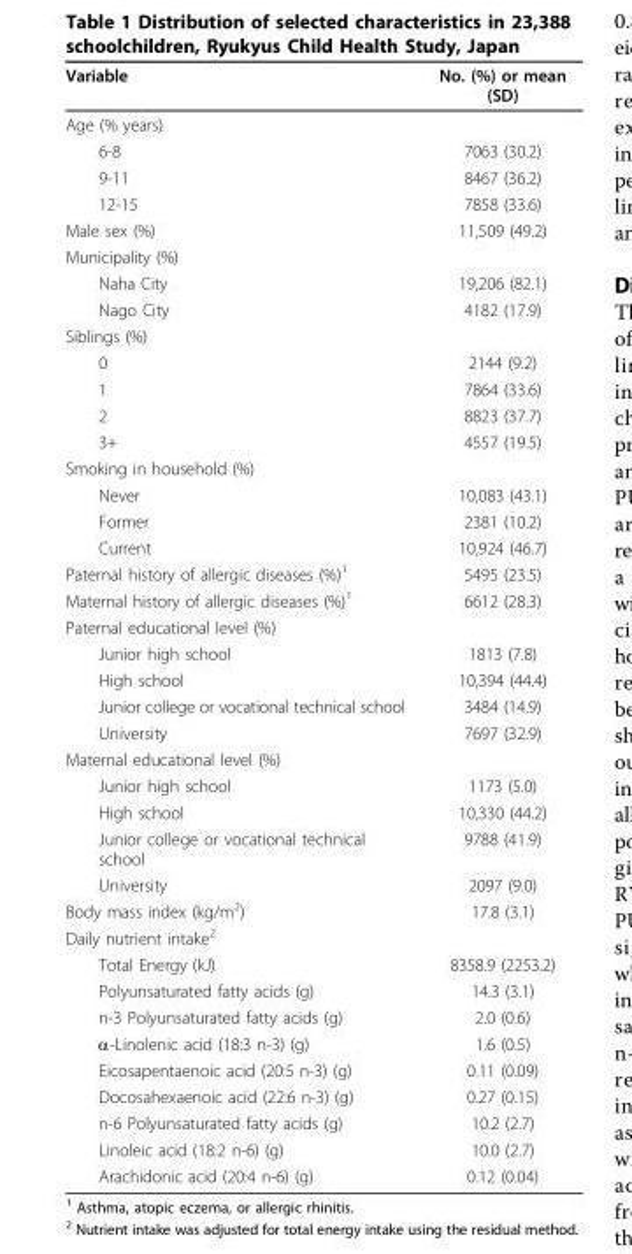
<table><thead><tr><td>Variable</td><td>No. (%) or mean (SD)</td></tr></thead><tbody><tr><td colspan="2">Age (% years)</td></tr><tr><td>6-8</td><td>7063 (30.2)</td></tr><tr><td>9-11</td><td>8467 (36.2)</td></tr><tr><td>12-15</td><td>7858 (33.6)</td></tr><tr><td>Male sex (%)</td><td>11,509 (49.2)</td></tr><tr><td colspan="2">Municipality (%)</td></tr><tr><td>Naha City</td><td>19,206 (82.1)</td></tr><tr><td>Nago City</td><td>4182 (17.9)</td></tr><tr><td colspan="2">Siblings (%)</td></tr><tr><td>0</td><td>2144 (9.2)</td></tr><tr><td>1</td><td>7864 (33.6)</td></tr><tr><td>2</td><td>8823 (37.7)</td></tr><tr><td>3+</td><td>4557 (19.5)</td></tr><tr><td colspan="2">Smoking in household (%)</td></tr><tr><td>Never</td><td>10,083 (43.1)</td></tr><tr><td>Former</td><td>2381 (10.2)</td></tr><tr><td>Current</td><td>10,924 (46.7)</td></tr><tr><td>Paternal history of allergic diseases (%)<sup>1</sup></td><td>5495 (23.5)</td></tr><tr><td>Maternal history of allergic diseases (%)<sup>1</sup></td><td>6612 (28.3)</td></tr><tr><td colspan="2">Paternal educational level (%)</td></tr><tr><td>Junior high school</td><td>1813 (7.8)</td></tr><tr><td>High school</td><td>10,394 (44.4)</td></tr><tr><td>Junior college or vocational technical school</td><td>3484 (14.9)</td></tr><tr><td>University</td><td>7697 (32.9)</td></tr><tr><td colspan="2">Maternal educational level (%)</td></tr><tr><td>Junior high school</td><td>1173 (5.0)</td></tr><tr><td>High school</td><td>10,330 (44.2)</td></tr><tr><td>Junior college or vocational technical school</td><td>9788 (41.9)</td></tr><tr><td>University</td><td>2097 (9.0)</td></tr><tr><td>Body mass index (kg/m<sup>2</sup>)</td><td>17.8 (3.1)</td></tr><tr><td colspan="2">Daily nutrient intake<sup>2</sup></td></tr><tr><td>Total Energy (kJ)</td><td>8358.9 (2253.2)</td></tr><tr><td>Polyunsaturated fatty acids (g)</td><td>14.3 (3.1)</td></tr><tr><td>n-3 Polyunsaturated fatty acids (g)</td><td>2.0 (0.6)</td></tr><tr><td>α-Linolenic acid (18:3 n-3) (g)</td><td>1.6 (0.5)</td></tr><tr><td>Eicosapentaenoic acid (20:5 n-3) (g)</td><td>0.11 (0.09)</td></tr><tr><td>Docosahexaenoic acid (22:6 n-3) (g)</td><td>0.27 (0.15)</td></tr><tr><td>n-6 Polyunsaturated fatty acids (g)</td><td>10.2 (2.7)</td></tr><tr><td>Linoleic acid (18:2 n-6) (g)</td><td>10.0 (2.7)</td></tr><tr><td>Arachidonic acid (20:4 n-6) (g)</td><td>0.12 (0.04)</td></tr></tbody></table>